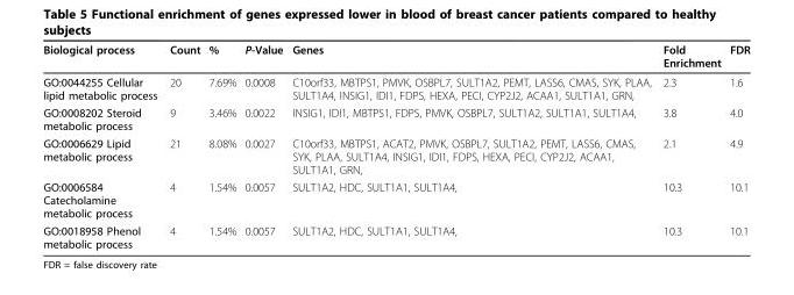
<table><thead><tr><td>Biological process</td><td>Count</td><td>%</td><td>P-Value</td><td>Genes</td><td>Fold Enrichment</td><td>FDR</td></tr></thead><tbody><tr><td>GO:0044255 Cellular lipid metabolic process</td><td>20</td><td>7.69%</td><td>0.0008</td><td>C10orf33, MBTPS1, PMVK, OSBPL7, SULT1A2, PEMT, LASS6, CMAS, SYK, PLAA, SULT1A4, INSIG1, IDI1, FDPS, HEXA, PECI, CYP2J2, ACAA1, SULT1A1, GRN,</td><td>2.3</td><td>1.6</td></tr><tr><td>GO:0008202 Steroid metabolic process</td><td>9</td><td>3.46%</td><td>0.0022</td><td>INSIG1, IDI1, MBTPS1, FDPS, PMVK, OSBPL7, SULT1A2, SULT1A1, SULT1A4,</td><td>3.8</td><td>4.0</td></tr><tr><td>GO:0006629 Lipid metabolic process</td><td>21</td><td>8.08%</td><td>0.0027</td><td>C10orf33, MBTPS1, ACAT2, PMVK, OSBPL7, SULT1A2, PEMT, LASS6, CMAS, SYK, PLAA, SULT1A4, INSIG1, IDI1, FDPS, HEXA, PECI, CYP2J2, ACAA1, SULT1A1, GRN,</td><td>2.1</td><td>4.9</td></tr><tr><td>GO:0006584 Catecholamine metabolic process</td><td>4</td><td>1.54%</td><td>0.0057</td><td>SULT1A2, HDC, SULT1A1, SULT1A4,</td><td>10.3</td><td>10.1</td></tr><tr><td>GO:0018958 Phenol metabolic process</td><td>4</td><td>1.54%</td><td>0.0057</td><td>SULT1A2, HDC, SULT1A1, SULT1A4,</td><td>10.3</td><td>10.1</td></tr></tbody></table>